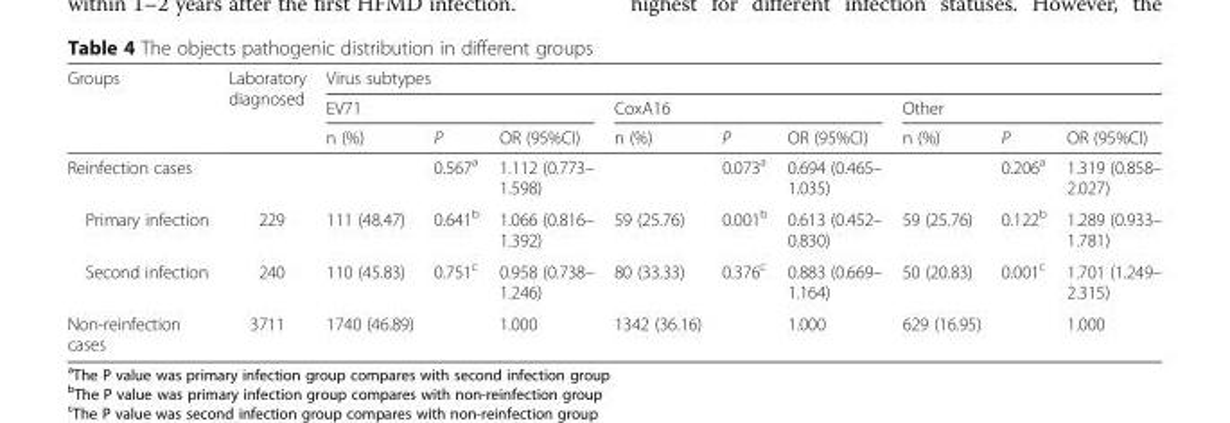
<table><thead><tr><td rowspan="3">Groups</td><td rowspan="3">Laboratory diagnosed</td><td colspan="9">Virus subtypes</td></tr><tr><td colspan="3">EV71</td><td colspan="3">CoxA16</td><td colspan="3">Other</td></tr><tr><td>n (%)</td><td>P</td><td>OR (95%CI)</td><td>n (%)</td><td>P</td><td>OR (95%CI)</td><td>n (%)</td><td>P</td><td>OR (95%CI)</td></tr></thead><tbody><tr><td>Reinfection cases</td><td></td><td></td><td>0.567<sup>a</sup></td><td>1.112 (0.773– 1.598)</td><td></td><td>0.073<sup>a</sup></td><td>0.694 (0.465– 1.035)</td><td></td><td>0.206<sup>a</sup></td><td>1.319 (0.858– 2.027)</td></tr><tr><td>Primary infection</td><td>229</td><td>111 (48.47)</td><td>0.641<sup>b</sup></td><td>1.066 (0.816– 1.392)</td><td>59 (25.76)</td><td>0.001<sup>b</sup></td><td>0.613 (0.452– 0.830)</td><td>59 (25.76)</td><td>0.122<sup>b</sup></td><td>1.289 (0.933– 1.781)</td></tr><tr><td>Second infection</td><td>240</td><td>110 (45.83)</td><td>0.751<sup>c</sup></td><td>0.958 (0.738– 1.246)</td><td>80 (33.33)</td><td>0.376<sup>c</sup></td><td>0.883 (0.669– 1.164)</td><td>50 (20.83)</td><td>0.001<sup>c</sup></td><td>1.701 (1.249– 2.315)</td></tr><tr><td>Non-reinfection cases</td><td>3711</td><td>1740 (46.89)</td><td></td><td>1.000</td><td>1342 (36.16)</td><td></td><td>1.000</td><td>629 (16.95)</td><td></td><td>1.000</td></tr></tbody></table>